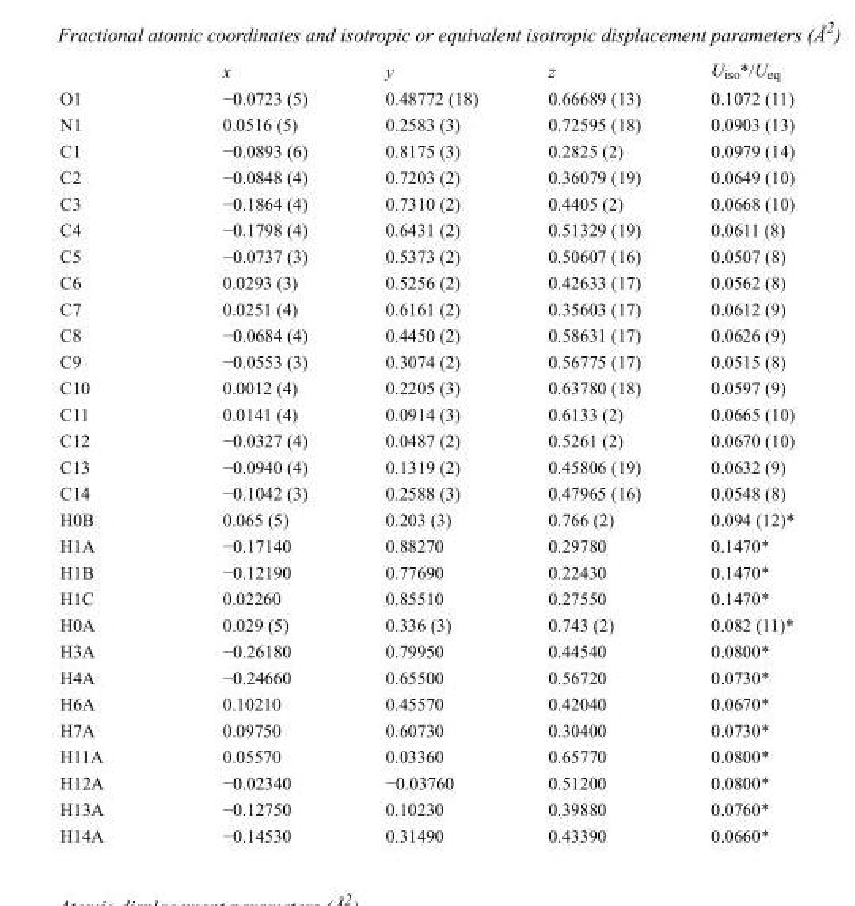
<table><thead><tr><td></td><td>x</td><td>y</td><td>z</td><td>U<sub>iso</sub>*/U<sub>eq</sub></td></tr></thead><tbody><tr><td>O1</td><td>−0.0723 (5)</td><td>0.48772 (18)</td><td>0.66689 (13)</td><td>0.1072 (11)</td></tr><tr><td>N1</td><td>0.0516 (5)</td><td>0.2583 (3)</td><td>0.72595 (18)</td><td>0.0903 (13)</td></tr><tr><td>C1</td><td>−0.0893 (6)</td><td>0.8175 (3)</td><td>0.2825 (2)</td><td>0.0979 (14)</td></tr><tr><td>C2</td><td>−0.0848 (4)</td><td>0.7203 (2)</td><td>0.36079 (19)</td><td>0.0649 (10)</td></tr><tr><td>C3</td><td>−0.1864 (4)</td><td>0.7310 (2)</td><td>0.4405 (2)</td><td>0.0668 (10)</td></tr><tr><td>C4</td><td>−0.1798 (4)</td><td>0.6431 (2)</td><td>0.51329 (19)</td><td>0.0611 (8)</td></tr><tr><td>C5</td><td>−0.0737 (3)</td><td>0.5373 (2)</td><td>0.50607 (16)</td><td>0.0507 (8)</td></tr><tr><td>C6</td><td>0.0293 (3)</td><td>0.5256 (2)</td><td>0.42633 (17)</td><td>0.0562 (8)</td></tr><tr><td>C7</td><td>0.0251 (4)</td><td>0.6161 (2)</td><td>0.35603 (17)</td><td>0.0612 (9)</td></tr><tr><td>C8</td><td>−0.0684 (4)</td><td>0.4450 (2)</td><td>0.58631 (17)</td><td>0.0626 (9)</td></tr><tr><td>C9</td><td>−0.0553 (3)</td><td>0.3074 (2)</td><td>0.56775 (17)</td><td>0.0515 (8)</td></tr><tr><td>C10</td><td>0.0012 (4)</td><td>0.2205 (3)</td><td>0.63780 (18)</td><td>0.0597 (9)</td></tr><tr><td>C11</td><td>0.0141 (4)</td><td>0.0914 (3)</td><td>0.6133 (2)</td><td>0.0665 (10)</td></tr><tr><td>C12</td><td>−0.0327 (4)</td><td>0.0487 (2)</td><td>0.5261 (2)</td><td>0.0670 (10)</td></tr><tr><td>C13</td><td>−0.0940 (4)</td><td>0.1319 (2)</td><td>0.45806 (19)</td><td>0.0632 (9)</td></tr><tr><td>C14</td><td>−0.1042 (3)</td><td>0.2588 (3)</td><td>0.47965 (16)</td><td>0.0548 (8)</td></tr><tr><td>H0B</td><td>0.065 (5)</td><td>0.203 (3)</td><td>0.766 (2)</td><td>0.094 (12)*</td></tr><tr><td>H1A</td><td>−0.17140</td><td>0.88270</td><td>0.29780</td><td>0.1470*</td></tr><tr><td>H1B</td><td>−0.12190</td><td>0.77690</td><td>0.22430</td><td>0.1470*</td></tr><tr><td>H1C</td><td>0.02260</td><td>0.85510</td><td>0.27550</td><td>0.1470*</td></tr><tr><td>H0A</td><td>0.029 (5)</td><td>0.336 (3)</td><td>0.743 (2)</td><td>0.082 (11)*</td></tr><tr><td>H3A</td><td>−0.26180</td><td>0.79950</td><td>0.44540</td><td>0.0800*</td></tr><tr><td>H4A</td><td>−0.24660</td><td>0.65500</td><td>0.56720</td><td>0.0730*</td></tr><tr><td>H6A</td><td>0.10210</td><td>0.45570</td><td>0.42040</td><td>0.0670*</td></tr><tr><td>H7A</td><td>0.09750</td><td>0.60730</td><td>0.30400</td><td>0.0730*</td></tr><tr><td>H11A</td><td>0.05570</td><td>0.03360</td><td>0.65770</td><td>0.0800*</td></tr><tr><td>H12A</td><td>−0.02340</td><td>−0.03760</td><td>0.51200</td><td>0.0800*</td></tr><tr><td>H13A</td><td>−0.12750</td><td>0.10230</td><td>0.39880</td><td>0.0760*</td></tr><tr><td>H14A</td><td>−0.14530</td><td>0.31490</td><td>0.43390</td><td>0.0660*</td></tr></tbody></table>